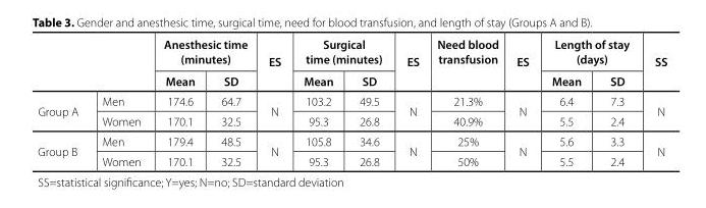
<table><thead><tr><td rowspan="2"></td><td rowspan="2"></td><td colspan="2">Anesthesic time (minutes)</td><td rowspan="2">ES</td><td colspan="2">Surgical time (minutes)</td><td rowspan="2">ES</td><td rowspan="2">Need blood transfusion</td><td rowspan="2">ES</td><td colspan="2">Length of stay (days)</td><td rowspan="2">SS</td></tr><tr><td>Mean</td><td>SD</td><td>Mean</td><td>SD</td><td>Mean</td><td>SD</td></tr></thead><tbody><tr><td rowspan="2">Group A</td><td>Men</td><td>174.6</td><td>64.7</td><td rowspan="2">N</td><td>103.2</td><td>49.5</td><td rowspan="2">N</td><td>21.3%</td><td rowspan="2">N</td><td>6.4</td><td>7.3</td><td rowspan="2">N</td></tr><tr><td>Women</td><td>170.1</td><td>32.5</td><td>95.3</td><td>26.8</td><td>40.9%</td><td>5.5</td><td>2.4</td></tr><tr><td rowspan="2">Group B</td><td>Men</td><td>179.4</td><td>48.5</td><td rowspan="2">N</td><td>105.8</td><td>34.6</td><td rowspan="2">N</td><td>25%</td><td rowspan="2">N</td><td>5.6</td><td>3.3</td><td rowspan="2">N</td></tr><tr><td>Women</td><td>170.1</td><td>32.5</td><td>95.3</td><td>26.8</td><td>50%</td><td>5.5</td><td>2.4</td></tr></tbody></table>